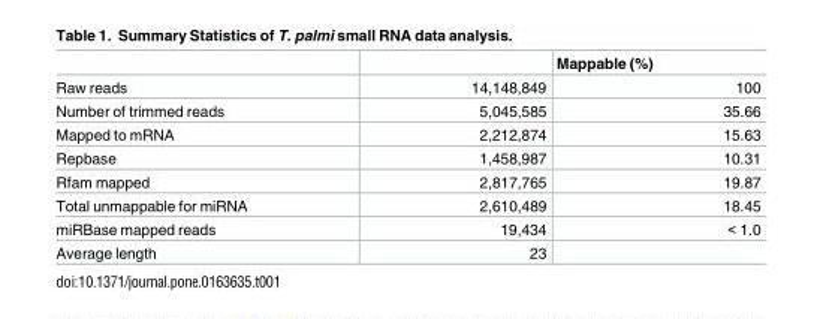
<table><thead><tr><td></td><td></td><td>Mappable (%)</td></tr></thead><tbody><tr><td>Raw reads</td><td>14,148,849</td><td>100</td></tr><tr><td>Number of trimmed reads</td><td>5,045,585</td><td>35.66</td></tr><tr><td>Mapped to mRNA</td><td>2,212,874</td><td>15.63</td></tr><tr><td>Repbase</td><td>1,458,987</td><td>10.31</td></tr><tr><td>Rfam mapped</td><td>2,817,765</td><td>19.87</td></tr><tr><td>Total unmappable for miRNA</td><td>2,610,489</td><td>18.45</td></tr><tr><td>miRBase mapped reads</td><td>19,434</td><td>&lt; 1.0</td></tr><tr><td>Average length</td><td>23</td><td></td></tr></tbody></table>